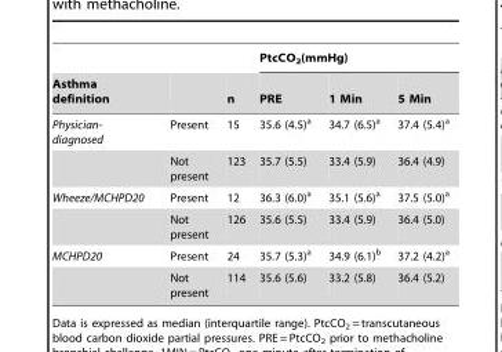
<table><thead><tr><td rowspan="2">Asthma definition</td><td rowspan="2"></td><td rowspan="2">n</td><td colspan="3">PtcCO<sub>2</sub>(mmHg)</td></tr><tr><td>PRE</td><td>1 Min</td><td>5 Min</td></tr></thead><tbody><tr><td rowspan="2">Physician- diagnosed</td><td>Present</td><td>15</td><td>35.6 (4.5)<sup>a</sup></td><td>34.7 (6.5)<sup>a</sup></td><td>37.4 (5.4)<sup>a</sup></td></tr><tr><td>Not present</td><td>123</td><td>35.7 (5.5)</td><td>33.4 (5.9)</td><td>36.4 (4.9)</td></tr><tr><td rowspan="2">Wheeze/MCHPD20</td><td>Present</td><td>12</td><td>36.3 (6.0)<sup>a</sup></td><td>35.1 (5.6)<sup>a</sup></td><td>37.5 (5.0)<sup>a</sup></td></tr><tr><td>Not present</td><td>126</td><td>35.6 (5.5)</td><td>33.4 (5.9)</td><td>36.4 (5.0)</td></tr><tr><td rowspan="2">MCHPD20</td><td>Present</td><td>24</td><td>35.7 (5.3)<sup>a</sup></td><td>34.9 (6.1)<sup>b</sup></td><td>37.2 (4.2)<sup>a</sup></td></tr><tr><td>Not present</td><td>114</td><td>35.6 (5.6)</td><td>33.2 (5.8)</td><td>36.4 (5.2)</td></tr></tbody></table>